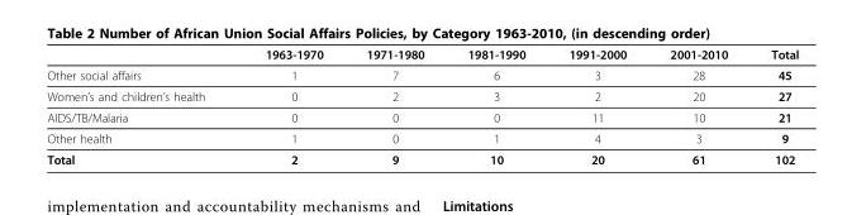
<table><thead><tr><td></td><td>1963-1970</td><td>1971-1980</td><td>1981-1990</td><td>1991-2000</td><td>2001-2010</td><td>Total</td></tr></thead><tbody><tr><td>Other social affairs</td><td>1</td><td>7</td><td>6</td><td>3</td><td>28</td><td>45</td></tr><tr><td>Women’s and children’s health</td><td>0</td><td>2</td><td>3</td><td>2</td><td>20</td><td>27</td></tr><tr><td>AIDS/TB/Malaria</td><td>0</td><td>0</td><td>0</td><td>11</td><td>10</td><td>21</td></tr><tr><td>Other health</td><td>1</td><td>0</td><td>1</td><td>4</td><td>3</td><td>9</td></tr><tr><td>Total</td><td>2</td><td>9</td><td>10</td><td>20</td><td>61</td><td>102</td></tr></tbody></table>